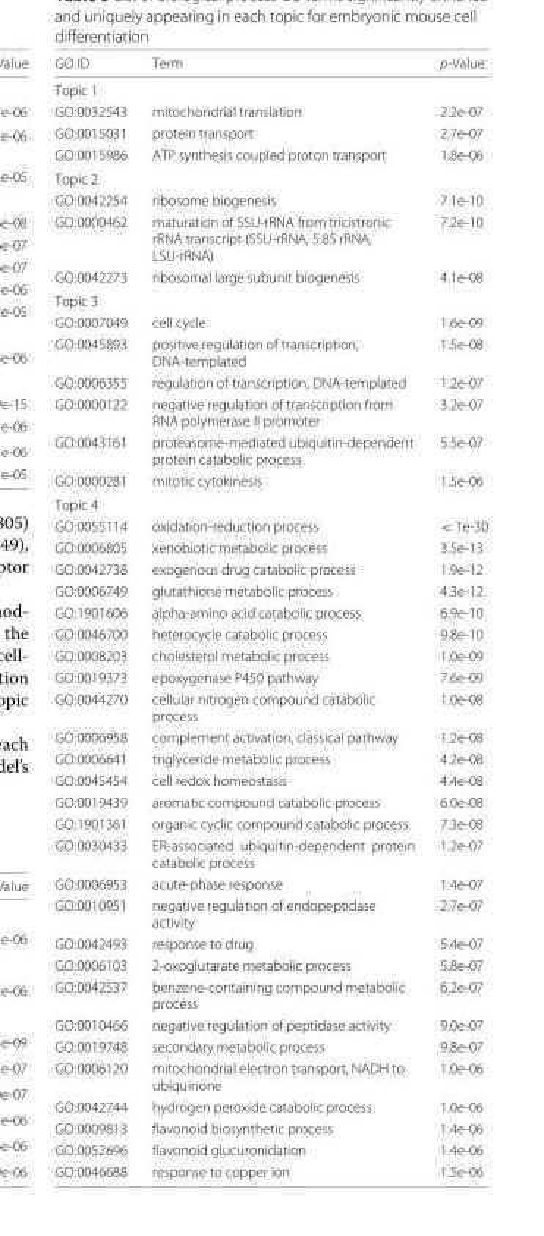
<table><thead><tr><td>GO.ID</td><td>Term</td><td>p-Value</td></tr></thead><tbody><tr><td colspan="3">Topic 1</td></tr><tr><td>GO:0032543</td><td>mitochondrial translation</td><td>2.2e-07</td></tr><tr><td>GO:0015031</td><td>protein transport</td><td>2.7e-07</td></tr><tr><td>GO:0015986</td><td>ATP synthesis coupled proton transport</td><td>1.8e-06</td></tr><tr><td colspan="3">Topic 2</td></tr><tr><td>GO:0042254</td><td>ribosome biogenesis</td><td>7.1e-10</td></tr><tr><td>GO:0000462</td><td>maturation of SSU-rRNA from tricistronic rRNA transcript (SSU-rRNA, 5.8S rRNA, LSU-rRNA)</td><td>7.2e-10</td></tr><tr><td>GO:0042273</td><td>ribosomal large subunit biogenesis</td><td>4.1e-08</td></tr><tr><td colspan="3">Topic 3</td></tr><tr><td>GO:0007049</td><td>cell cycle</td><td>1.6e-09</td></tr><tr><td>GO:0045893</td><td>positive regulation of transcription, DNA-templated</td><td>1.5e-08</td></tr><tr><td>GO:0006355</td><td>regulation of transcription, DNA-templated</td><td>1.2e-07</td></tr><tr><td>GO:0000122</td><td>negative regulation of transcription from RNA polymerase II promoter</td><td>3.2e-07</td></tr><tr><td>GO:0043161</td><td>proteasome-mediated ubiquitin-dependent protein catabolic process</td><td>5.5e-07</td></tr><tr><td>GO:0000281</td><td>mitotic cytokinesis</td><td>1.5e-06</td></tr><tr><td colspan="3">Topic 4</td></tr><tr><td>GO:0055114</td><td>oxidation-reduction process</td><td>&lt; 1e-30</td></tr><tr><td>GO:0006805</td><td>xenobiotic metabolic process</td><td>3.5e-13</td></tr><tr><td>GO:0042738</td><td>exogenous drug catabolic process</td><td>1.9e-12</td></tr><tr><td>GO:0006749</td><td>glutathione metabolic process</td><td>4.3e-12</td></tr><tr><td>GO:1901606</td><td>alpha-amino acid catabolic process</td><td>6.9e-10</td></tr><tr><td>GO:0046700</td><td>heterocycle catabolic process</td><td>9.8e-10</td></tr><tr><td>GO:0008203</td><td>cholesterol metabolic process</td><td>1.0e-09</td></tr><tr><td>GO:0019373</td><td>epoxygenase P450 pathway</td><td>7.6e-09</td></tr><tr><td>GO:0044270</td><td>cellular nitrogen compound catabolic process</td><td>1.0e-08</td></tr><tr><td>GO:0006958</td><td>complement activation, classical pathway</td><td>1.2e-08</td></tr><tr><td>GO:0006641</td><td>triglyceride metabolic process</td><td>4.2e-08</td></tr><tr><td>GO:0045454</td><td>cell redox homeostasis</td><td>4.4e-08</td></tr><tr><td>GO:0019439</td><td>aromatic compound catabolic process</td><td>6.0e-08</td></tr><tr><td>GO:1901361</td><td>organic cyclic compound catabolic process</td><td>7.3e-08</td></tr><tr><td>GO:0030433</td><td>ER-associated ubiquitin-dependent protein catabolic process</td><td>1.2e-07</td></tr><tr><td>GO:0006953</td><td>acute-phase response</td><td>1.4e-07</td></tr><tr><td>GO:0010951</td><td>negative regulation of endopeptidase activity</td><td>2.7e-07</td></tr><tr><td>GO:0042493</td><td>response to drug</td><td>5.4e-07</td></tr><tr><td>GO:0006103</td><td>2-oxoglutarate metabolic process</td><td>5.8e-07</td></tr><tr><td>GO:0042537</td><td>benzene-containing compound metabolic process</td><td>6.2e-07</td></tr><tr><td>GO:0010466</td><td>negative regulation of peptidase activity</td><td>9.0e-07</td></tr><tr><td>GO:0019748</td><td>secondary metabolic process</td><td>9.8e-07</td></tr><tr><td>GO:0006120</td><td>mitochondrial electron transport, NADH to ubiquinone</td><td>1.0e-06</td></tr><tr><td>GO:0042744</td><td>hydrogen peroxide catabolic process</td><td>1.0e-06</td></tr><tr><td>GO:0009813</td><td>flavonoid biosynthetic process</td><td>1.4e-06</td></tr><tr><td>GO:0052696</td><td>flavonoid glucuronidation</td><td>1.4e-06</td></tr><tr><td>GO:0046688</td><td>response to copper ion</td><td>1.5e-06</td></tr></tbody></table>